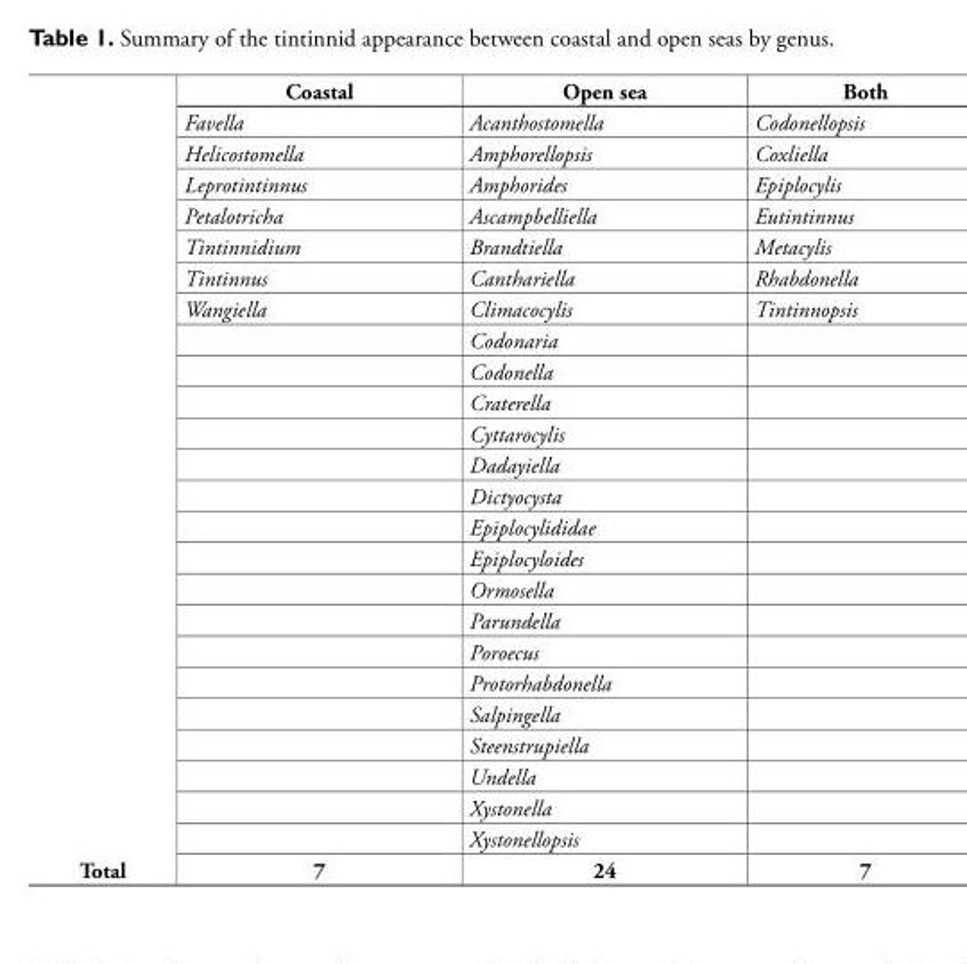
<table><tbody><tr><td rowspan="26">Total</td><td>Coastal</td><td>Open sea</td><td>Both</td></tr><tr><td>Favella</td><td>Acanthostomella</td><td>Codonellopsis</td></tr><tr><td>Helicostomella</td><td>Amphorellopsis</td><td>Coxliella</td></tr><tr><td>Leprotintinnus</td><td>Amphorides</td><td>Epiplocylis</td></tr><tr><td>Petalotricha</td><td>Ascampbelliella</td><td>Eutintinnus</td></tr><tr><td>Tintinnidium</td><td>Brandtiella</td><td>Metacylis</td></tr><tr><td>Tintinnus</td><td>Canthariella</td><td>Rhabdonella</td></tr><tr><td>Wangiella</td><td>Climacocylis</td><td>Tintinnopsis</td></tr><tr><td></td><td>Codonaria</td><td></td></tr><tr><td></td><td>Codonella</td><td></td></tr><tr><td></td><td>Craterella</td><td></td></tr><tr><td></td><td>Cyttarocylis</td><td></td></tr><tr><td></td><td>Dadayiella</td><td></td></tr><tr><td></td><td>Dictyocysta</td><td></td></tr><tr><td></td><td>Epiplocylididae</td><td></td></tr><tr><td></td><td>Epiplocyloides</td><td></td></tr><tr><td></td><td>Ormosella</td><td></td></tr><tr><td></td><td>Parundella</td><td></td></tr><tr><td></td><td>Poroecus</td><td></td></tr><tr><td></td><td>Protorhabdonella</td><td></td></tr><tr><td></td><td>Salpingella</td><td></td></tr><tr><td></td><td>Steenstrupiella</td><td></td></tr><tr><td></td><td>Undella</td><td></td></tr><tr><td></td><td>Xystonella</td><td></td></tr><tr><td></td><td>Xystonellopsis</td><td></td></tr><tr><td>7</td><td>24</td><td>7</td></tr></tbody></table>